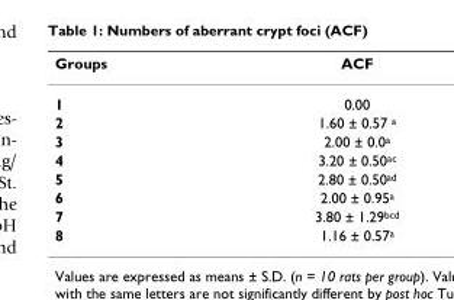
<table><thead><tr><td>Groups</td><td>ACF</td></tr></thead><tbody><tr><td>1</td><td>0.00</td></tr><tr><td>2</td><td>1.60 ± 0.57 <sup>a</sup></td></tr><tr><td>3</td><td>2.00 ± 0.0<sup>a</sup></td></tr><tr><td>4</td><td>3.20 ± 0.50<sup>ac</sup></td></tr><tr><td>5</td><td>2.80 ± 0.50<sup>ad</sup></td></tr><tr><td>6</td><td>2.00 ± 0.95<sup>a</sup></td></tr><tr><td>7</td><td>3.80 ± 1.29<sup>bcd</sup></td></tr><tr><td>8</td><td>1.16 ± 0.57<sup>a</sup></td></tr></tbody></table>